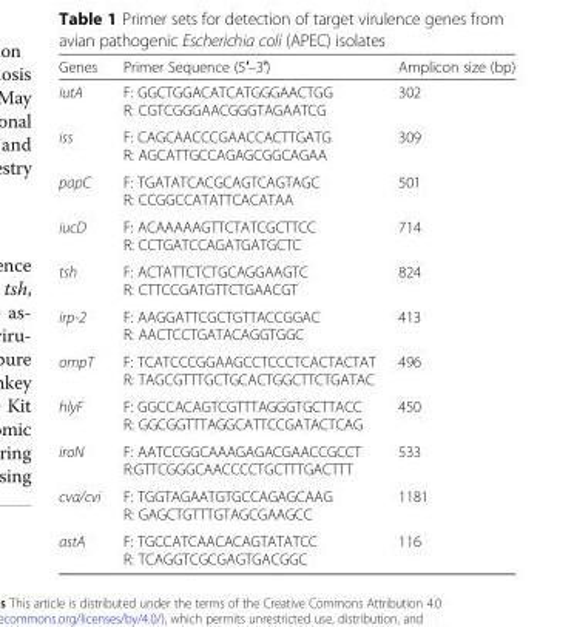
<table><thead><tr><td>Genes</td><td>Primer Sequence (5′–3′)</td><td>Amplicon size (bp)</td></tr></thead><tbody><tr><td>iutA</td><td>F: GGCTGGACATCATGGGAACTGG R: CGTCGGGAACGGGTAGAATCG</td><td>302</td></tr><tr><td>iss</td><td>F: CAGCAACCCGAACCACTTGATG R: AGCATTGCCAGAGCGGCAGAA</td><td>309</td></tr><tr><td>papC</td><td>F: TGATATCACGCAGTCAGTAGC R: CCGGCCATATTCACATAA</td><td>501</td></tr><tr><td>iucD</td><td>F: ACAAAAAGTTCTATCGCTTCC R: CCTGATCCAGATGATGCTC</td><td>714</td></tr><tr><td>tsh</td><td>F: ACTATTCTCTGCAGGAAGTC R: CTTCCGATGTTCTGAACGT</td><td>824</td></tr><tr><td>irp-2</td><td>F: AAGGATTCGCTGTTACCGGAC R: AACTCCTGATACAGGTGGC</td><td>413</td></tr><tr><td>ompT</td><td>F: TCATCCCGGAAGCCTCCCTCACTACTAT R: TAGCGTTTGCTGCACTGGCTTCTGATAC</td><td>496</td></tr><tr><td>hlyF</td><td>F: GGCCACAGTCGTTTAGGGTGCTTACC R: GGCGGTTTAGGCATTCCGATACTCAG</td><td>450</td></tr><tr><td>iroN</td><td>F: AATCCGGCAAAGAGACGAACCGCCT R:GTTCGGGCAACCCCTGCTTTGACTTT</td><td>533</td></tr><tr><td>cva/cvi</td><td>F: TGGTAGAATGTGCCAGAGCAAG R: GAGCTGTTTGTAGCGAAGCC</td><td>1181</td></tr><tr><td>astA</td><td>F: TGCCATCAACACAGTATATCC R: TCAGGTCGCGAGTGACGGC</td><td>116</td></tr></tbody></table>